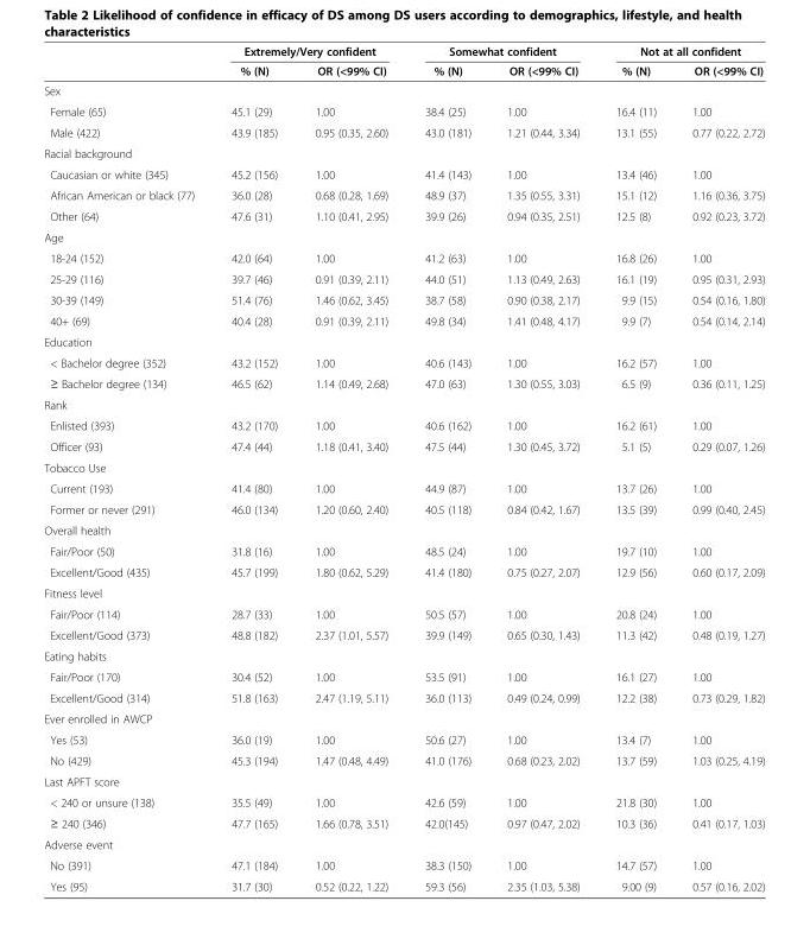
<table><thead><tr><td rowspan="2"></td><td colspan="2">Extremely/Very confident</td><td colspan="2">Somewhat confident</td><td colspan="2">Not at all confident</td></tr><tr><td>% (N)</td><td>OR (&lt;99% CI)</td><td>% (N)</td><td>OR (&lt;99% CI)</td><td>% (N)</td><td>OR (&lt;99% CI)</td></tr></thead><tbody><tr><td colspan="7">Sex</td></tr><tr><td>Female (65)</td><td>45.1 (29)</td><td>1.00</td><td>38.4 (25)</td><td>1.00</td><td>16.4 (11)</td><td>1.00</td></tr><tr><td>Male (422)</td><td>43.9 (185)</td><td>0.95 (0.35, 2.60)</td><td>43.0 (181)</td><td>1.21 (0.44, 3.34)</td><td>13.1 (55)</td><td>0.77 (0.22, 2.72)</td></tr><tr><td colspan="7">Racial background</td></tr><tr><td>Caucasian or white (345)</td><td>45.2 (156)</td><td>1.00</td><td>41.4 (143)</td><td>1.00</td><td>13.4 (46)</td><td>1.00</td></tr><tr><td>African American or black (77)</td><td>36.0 (28)</td><td>0.68 (0.28, 1.69)</td><td>48.9 (37)</td><td>1.35 (0.55, 3.31)</td><td>15.1 (12)</td><td>1.16 (0.36, 3.75)</td></tr><tr><td>Other (64)</td><td>47.6 (31)</td><td>1.10 (0.41, 2.95)</td><td>39.9 (26)</td><td>0.94 (0.35, 2.51)</td><td>12.5 (8)</td><td>0.92 (0.23, 3.72)</td></tr><tr><td colspan="7">Age</td></tr><tr><td>18-24 (152)</td><td>42.0 (64)</td><td>1.00</td><td>41.2 (63)</td><td>1.00</td><td>16.8 (26)</td><td>1.00</td></tr><tr><td>25-29 (116)</td><td>39.7 (46)</td><td>0.91 (0.39, 2.11)</td><td>44.0 (51)</td><td>1.13 (0.49, 2.63)</td><td>16.1 (19)</td><td>0.95 (0.31, 2.93)</td></tr><tr><td>30-39 (149)</td><td>51.4 (76)</td><td>1.46 (0.62, 3.45)</td><td>38.7 (58)</td><td>0.90 (0.38, 2.17)</td><td>9.9 (15)</td><td>0.54 (0.16, 1.80)</td></tr><tr><td>40+ (69)</td><td>40.4 (28)</td><td>0.91 (0.39, 2.11)</td><td>49.8 (34)</td><td>1.41 (0.48, 4.17)</td><td>9.9 (7)</td><td>0.54 (0.14, 2.14)</td></tr><tr><td colspan="7">Education</td></tr><tr><td>&lt; Bachelor degree (352)</td><td>43.2 (152)</td><td>1.00</td><td>40.6 (143)</td><td>1.00</td><td>16.2 (57)</td><td>1.00</td></tr><tr><td>≥ Bachelor degree (134)</td><td>46.5 (62)</td><td>1.14 (0.49, 2.68)</td><td>47.0 (63)</td><td>1.30 (0.55, 3.03)</td><td>6.5 (9)</td><td>0.36 (0.11, 1.25)</td></tr><tr><td colspan="7">Rank</td></tr><tr><td>Enlisted (393)</td><td>43.2 (170)</td><td>1.00</td><td>40.6 (162)</td><td>1.00</td><td>16.2 (61)</td><td>1.00</td></tr><tr><td>Officer (93)</td><td>47.4 (44)</td><td>1.18 (0.41, 3.40)</td><td>47.5 (44)</td><td>1.30 (0.45, 3.72)</td><td>5.1 (5)</td><td>0.29 (0.07, 1.26)</td></tr><tr><td colspan="7">Tobacco Use</td></tr><tr><td>Current (193)</td><td>41.4 (80)</td><td>1.00</td><td>44.9 (87)</td><td>1.00</td><td>13.7 (26)</td><td>1.00</td></tr><tr><td>Former or never (291)</td><td>46.0 (134)</td><td>1.20 (0.60, 2.40)</td><td>40.5 (118)</td><td>0.84 (0.42, 1.67)</td><td>13.5 (39)</td><td>0.99 (0.40, 2.45)</td></tr><tr><td colspan="7">Overall health</td></tr><tr><td>Fair/Poor (50)</td><td>31.8 (16)</td><td>1.00</td><td>48.5 (24)</td><td>1.00</td><td>19.7 (10)</td><td>1.00</td></tr><tr><td>Excellent/Good (435)</td><td>45.7 (199)</td><td>1.80 (0.62, 5.29)</td><td>41.4 (180)</td><td>0.75 (0.27, 2.07)</td><td>12.9 (56)</td><td>0.60 (0.17, 2.09)</td></tr><tr><td colspan="7">Fitness level</td></tr><tr><td>Fair/Poor (114)</td><td>28.7 (33)</td><td>1.00</td><td>50.5 (57)</td><td>1.00</td><td>20.8 (24)</td><td>1.00</td></tr><tr><td>Excellent/Good (373)</td><td>48.8 (182)</td><td>2.37 (1.01, 5.57)</td><td>39.9 (149)</td><td>0.65 (0.30, 1.43)</td><td>11.3 (42)</td><td>0.48 (0.19, 1.27)</td></tr><tr><td colspan="7">Eating habits</td></tr><tr><td>Fair/Poor (170)</td><td>30.4 (52)</td><td>1.00</td><td>53.5 (91)</td><td>1.00</td><td>16.1 (27)</td><td>1.00</td></tr><tr><td>Excellent/Good (314)</td><td>51.8 (163)</td><td>2.47 (1.19, 5.11)</td><td>36.0 (113)</td><td>0.49 (0.24, 0.99)</td><td>12.2 (38)</td><td>0.73 (0.29, 1.82)</td></tr><tr><td colspan="7">Ever enrolled in AWCP</td></tr><tr><td>Yes (53)</td><td>36.0 (19)</td><td>1.00</td><td>50.6 (27)</td><td>1.00</td><td>13.4 (7)</td><td>1.00</td></tr><tr><td>No (429)</td><td>45.3 (194)</td><td>1.47 (0.48, 4.49)</td><td>41.0 (176)</td><td>0.68 (0.23, 2.02)</td><td>13.7 (59)</td><td>1.03 (0.25, 4.19)</td></tr><tr><td colspan="7">Last APFT score</td></tr><tr><td>&lt; 240 or unsure (138)</td><td>35.5 (49)</td><td>1.00</td><td>42.6 (59)</td><td>1.00</td><td>21.8 (30)</td><td>1.00</td></tr><tr><td>≥ 240 (346)</td><td>47.7 (165)</td><td>1.66 (0.78, 3.51)</td><td>42.0(145)</td><td>0.97 (0.47, 2.02)</td><td>10.3 (36)</td><td>0.41 (0.17, 1.03)</td></tr><tr><td colspan="7">Adverse event</td></tr><tr><td>No (391)</td><td>47.1 (184)</td><td>1.00</td><td>38.3 (150)</td><td>1.00</td><td>14.7 (57)</td><td>1.00</td></tr><tr><td>Yes (95)</td><td>31.7 (30)</td><td>0.52 (0.22, 1.22)</td><td>59.3 (56)</td><td>2.35 (1.03, 5.38)</td><td>9.00 (9)</td><td>0.57 (0.16, 2.02)</td></tr></tbody></table>